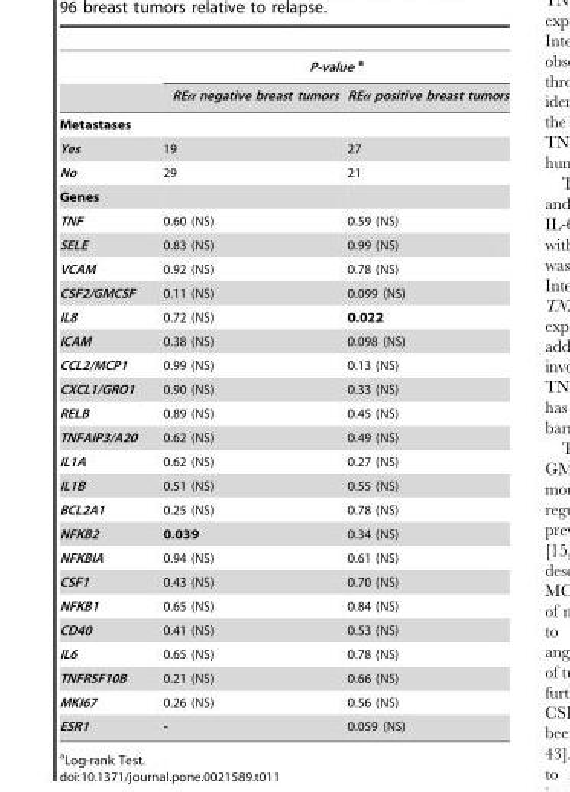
<table><thead><tr><td rowspan="2"></td><td colspan="2">P-value a</td></tr><tr><td>REα negative breast tumors</td><td>REα positive breast tumors</td></tr></thead><tbody><tr><td colspan="3">Metastases</td></tr><tr><td>Yes</td><td>19</td><td>27</td></tr><tr><td>No</td><td>29</td><td>21</td></tr><tr><td colspan="3">Genes</td></tr><tr><td>TNF</td><td>0.60 (NS)</td><td>0.59 (NS)</td></tr><tr><td>SELE</td><td>0.83 (NS)</td><td>0.99 (NS)</td></tr><tr><td>VCAM</td><td>0.92 (NS)</td><td>0.78 (NS)</td></tr><tr><td>CSF2/GMCSF</td><td>0.11 (NS)</td><td>0.099 (NS)</td></tr><tr><td>IL8</td><td>0.72 (NS)</td><td>0.022</td></tr><tr><td>ICAM</td><td>0.38 (NS)</td><td>0.098 (NS)</td></tr><tr><td>CCL2/MCP1</td><td>0.99 (NS)</td><td>0.13 (NS)</td></tr><tr><td>CXCL1/GRO1</td><td>0.90 (NS)</td><td>0.33 (NS)</td></tr><tr><td>RELB</td><td>0.89 (NS)</td><td>0.45 (NS)</td></tr><tr><td>TNFAIP3/A20</td><td>0.62 (NS)</td><td>0.49 (NS)</td></tr><tr><td>IL1A</td><td>0.62 (NS)</td><td>0.27 (NS)</td></tr><tr><td>IL1B</td><td>0.51 (NS)</td><td>0.55 (NS)</td></tr><tr><td>BCL2A1</td><td>0.25 (NS)</td><td>0.78 (NS)</td></tr><tr><td>NFKB2</td><td>0.039</td><td>0.34 (NS)</td></tr><tr><td>NFKBIA</td><td>0.94 (NS)</td><td>0.61 (NS)</td></tr><tr><td>CSF1</td><td>0.43 (NS)</td><td>0.70 (NS)</td></tr><tr><td>NFKB1</td><td>0.65 (NS)</td><td>0.84 (NS)</td></tr><tr><td>CD40</td><td>0.41 (NS)</td><td>0.53 (NS)</td></tr><tr><td>IL6</td><td>0.65 (NS)</td><td>0.78 (NS)</td></tr><tr><td>TNFRSF10B</td><td>0.21 (NS)</td><td>0.66 (NS)</td></tr><tr><td>MKI67</td><td>0.26 (NS)</td><td>0.56 (NS)</td></tr><tr><td>ESR1</td><td>-</td><td>0.059 (NS)</td></tr></tbody></table>